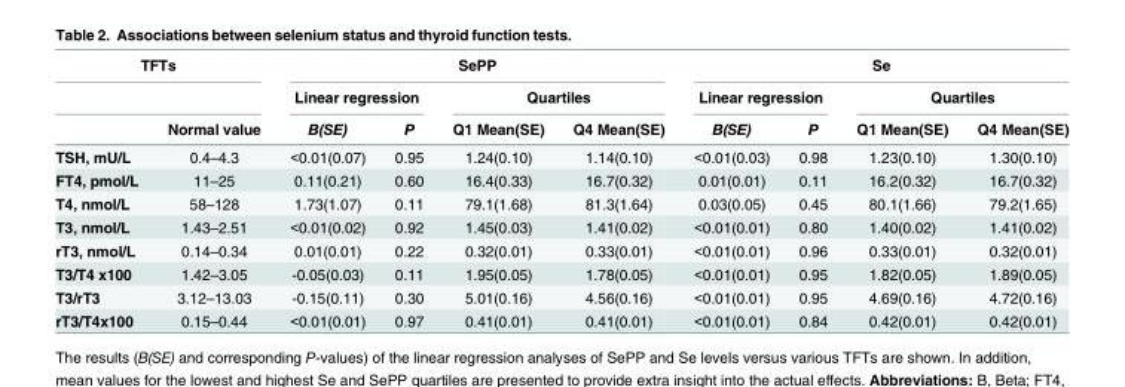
<table><thead><tr><td colspan="2">TFTs</td><td colspan="4">SePP</td><td colspan="4">Se</td></tr><tr><td rowspan="2"></td><td rowspan="2">Normal value</td><td colspan="2">Linear regression</td><td colspan="2">Quartiles</td><td colspan="2">Linear regression</td><td colspan="2">Quartiles</td></tr><tr><td>B(SE)</td><td>P</td><td>Q1 Mean(SE)</td><td>Q4 Mean(SE)</td><td>B(SE)</td><td>P</td><td>Q1 Mean(SE)</td><td>Q4 Mean(SE)</td></tr></thead><tbody><tr><td>TSH, mU/L</td><td>0.4–4.3</td><td>&lt;0.01(0.07)</td><td>0.95</td><td>1.24(0.10)</td><td>1.14(0.10)</td><td>&lt;0.01(0.03)</td><td>0.98</td><td>1.23(0.10)</td><td>1.30(0.10)</td></tr><tr><td>FT4, pmol/L</td><td>11–25</td><td>0.11(0.21)</td><td>0.60</td><td>16.4(0.33)</td><td>16.7(0.32)</td><td>0.01(0.01)</td><td>0.11</td><td>16.2(0.32)</td><td>16.7(0.32)</td></tr><tr><td>T4, nmol/L</td><td>58–128</td><td>1.73(1.07)</td><td>0.11</td><td>79.1(1.68)</td><td>81.3(1.64)</td><td>0.03(0.05)</td><td>0.45</td><td>80.1(1.66)</td><td>79.2(1.65)</td></tr><tr><td>T3, nmol/L</td><td>1.43–2.51</td><td>&lt;0.01(0.02)</td><td>0.92</td><td>1.45(0.03)</td><td>1.41(0.02)</td><td>&lt;0.01(0.01)</td><td>0.80</td><td>1.40(0.02)</td><td>1.41(0.02)</td></tr><tr><td>rT3, nmol/L</td><td>0.14–0.34</td><td>0.01(0.01)</td><td>0.22</td><td>0.32(0.01)</td><td>0.33(0.01)</td><td>&lt;0.01(0.01)</td><td>0.96</td><td>0.33(0.01)</td><td>0.32(0.01)</td></tr><tr><td>T3/T4 x100</td><td>1.42–3.05</td><td>-0.05(0.03)</td><td>0.11</td><td>1.95(0.05)</td><td>1.78(0.05)</td><td>&lt;0.01(0.01)</td><td>0.95</td><td>1.82(0.05)</td><td>1.89(0.05)</td></tr><tr><td>T3/rT3</td><td>3.12–13.03</td><td>-0.15(0.11)</td><td>0.30</td><td>5.01(0.16)</td><td>4.56(0.16)</td><td>&lt;0.01(0.01)</td><td>0.95</td><td>4.69(0.16)</td><td>4.72(0.16)</td></tr><tr><td>rT3/T4x100</td><td>0.15–0.44</td><td>&lt;0.01(0.01)</td><td>0.97</td><td>0.41(0.01)</td><td>0.41(0.01)</td><td>&lt;0.01(0.01)</td><td>0.84</td><td>0.42(0.01)</td><td>0.42(0.01)</td></tr></tbody></table>